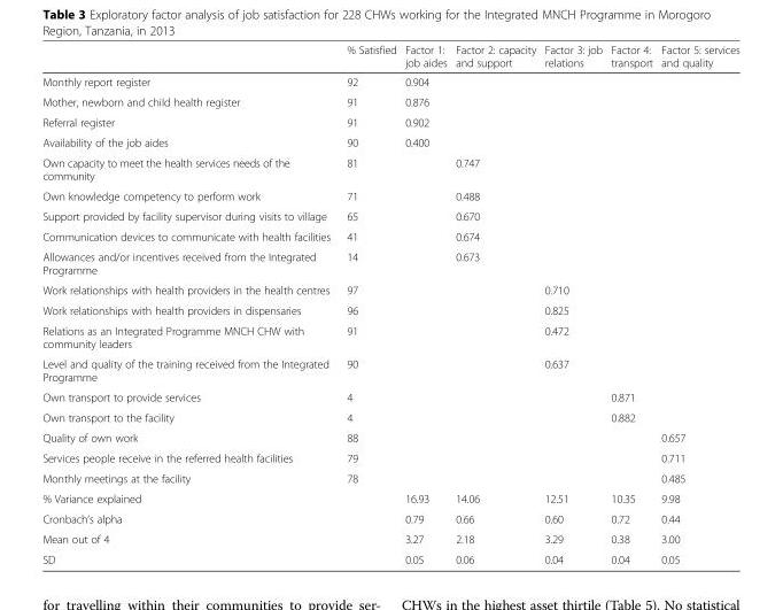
<table><thead><tr><td></td><td>% Satisfied</td><td>Factor 1: job aides</td><td>Factor 2: capacity and support</td><td>Factor 3: job relations</td><td>Factor 4: transport</td><td>Factor 5: services and quality</td></tr></thead><tbody><tr><td>Monthly report register</td><td>92</td><td>0.904</td><td></td><td></td><td></td><td></td></tr><tr><td>Mother, newborn and child health register</td><td>91</td><td>0.876</td><td></td><td></td><td></td><td></td></tr><tr><td>Referral register</td><td>91</td><td>0.902</td><td></td><td></td><td></td><td></td></tr><tr><td>Availability of the job aides</td><td>90</td><td>0.400</td><td></td><td></td><td></td><td></td></tr><tr><td>Own capacity to meet the health services needs of the community</td><td>81</td><td></td><td>0.747</td><td></td><td></td><td></td></tr><tr><td>Own knowledge competency to perform work</td><td>71</td><td></td><td>0.488</td><td></td><td></td><td></td></tr><tr><td>Support provided by facility supervisor during visits to village</td><td>65</td><td></td><td>0.670</td><td></td><td></td><td></td></tr><tr><td>Communication devices to communicate with health facilities</td><td>41</td><td></td><td>0.674</td><td></td><td></td><td></td></tr><tr><td>Allowances and/or incentives received from the Integrated Programme</td><td>14</td><td></td><td>0.673</td><td></td><td></td><td></td></tr><tr><td>Work relationships with health providers in the health centres</td><td>97</td><td></td><td></td><td>0.710</td><td></td><td></td></tr><tr><td>Work relationships with health providers in dispensaries</td><td>96</td><td></td><td></td><td>0.825</td><td></td><td></td></tr><tr><td>Relations as an Integrated Programme MNCH CHW with community leaders</td><td>91</td><td></td><td></td><td>0.472</td><td></td><td></td></tr><tr><td>Level and quality of the training received from the Integrated Programme</td><td>90</td><td></td><td></td><td>0.637</td><td></td><td></td></tr><tr><td>Own transport to provide services</td><td>4</td><td></td><td></td><td></td><td>0.871</td><td></td></tr><tr><td>Own transport to the facility</td><td>4</td><td></td><td></td><td></td><td>0.882</td><td></td></tr><tr><td>Quality of own work</td><td>88</td><td></td><td></td><td></td><td></td><td>0.657</td></tr><tr><td>Services people receive in the referred health facilities</td><td>79</td><td></td><td></td><td></td><td></td><td>0.711</td></tr><tr><td>Monthly meetings at the facility</td><td>78</td><td></td><td></td><td></td><td></td><td>0.485</td></tr><tr><td>% Variance explained</td><td></td><td>16.93</td><td>14.06</td><td>12.51</td><td>10.35</td><td>9.98</td></tr><tr><td>Cronbach’s alpha</td><td></td><td>0.79</td><td>0.66</td><td>0.60</td><td>0.72</td><td>0.44</td></tr><tr><td>Mean out of 4</td><td></td><td>3.27</td><td>2.18</td><td>3.29</td><td>0.38</td><td>3.00</td></tr><tr><td>SD</td><td></td><td>0.05</td><td>0.06</td><td>0.04</td><td>0.04</td><td>0.05</td></tr></tbody></table>